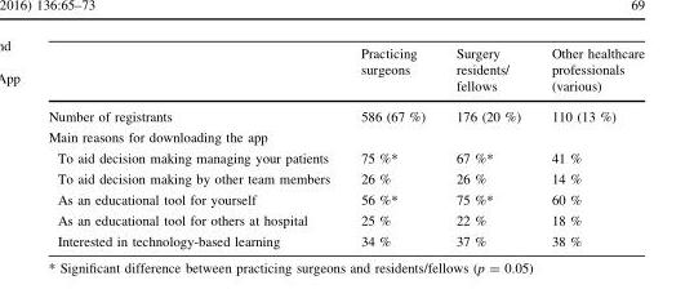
<table><thead><tr><td></td><td>Practicing surgeons</td><td>Surgery residents/ fellows</td><td>Other healthcare professionals (various)</td></tr></thead><tbody><tr><td>Number of registrants</td><td>586 (67 %)</td><td>176 (20 %)</td><td>110 (13 %)</td></tr><tr><td colspan="4">Main reasons for downloading the app</td></tr><tr><td>To aid decision making managing your patients</td><td>75 %*</td><td>67 %*</td><td>41 %</td></tr><tr><td>To aid decision making by other team members</td><td>26 %</td><td>26 %</td><td>14 %</td></tr><tr><td>As an educational tool for yourself</td><td>56 %*</td><td>75 %*</td><td>60 %</td></tr><tr><td>As an educational tool for others at hospital</td><td>25 %</td><td>22 %</td><td>18 %</td></tr><tr><td>Interested in technology-based learning</td><td>34 %</td><td>37 %</td><td>38 %</td></tr></tbody></table>